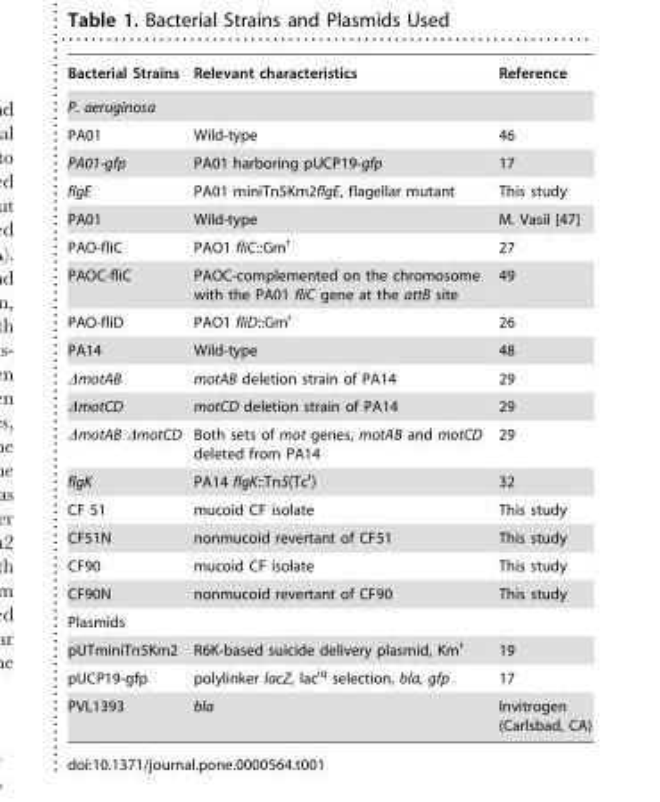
<table><thead><tr><td>Bacterial Strains</td><td>Relevant characteristics</td><td>Reference</td></tr></thead><tbody><tr><td colspan="3">P. aeruginosa</td></tr><tr><td>PA01</td><td>Wild-type</td><td>46</td></tr><tr><td>PA01-gfp</td><td>PA01 harboring pUCP19-gfp</td><td>17</td></tr><tr><td>flgE</td><td>PA01 miniTn5Km2flgE, flagellar mutant</td><td>This study</td></tr><tr><td>PA01</td><td>Wild-type</td><td>M. Vasil [47]</td></tr><tr><td>PAO-fliC</td><td>PAO1 fliC::Gm<sup>r</sup></td><td>27</td></tr><tr><td>PAOC-fliC</td><td>PAOC-complemented on the chromosome with the PA01 fliC gene at the attB site</td><td>49</td></tr><tr><td>PAO-fliD</td><td>PAO1 fliD::Gm<sup>r</sup></td><td>26</td></tr><tr><td>PA14</td><td>Wild-type</td><td>48</td></tr><tr><td>ΔmotAB</td><td>motAB deletion strain of PA14</td><td>29</td></tr><tr><td>ΔmotCD</td><td>motCD deletion strain of PA14</td><td>29</td></tr><tr><td>ΔmotAB ΔmotCD</td><td>Both sets of mot genes, motAB and motCD deleted from PA14</td><td>29</td></tr><tr><td>flgK</td><td>PA14 flgK::Tn5(Tc<sup>r</sup>)</td><td>32</td></tr><tr><td>CF 51</td><td>mucoid CF isolate</td><td>This study</td></tr><tr><td>CF51N</td><td>nonmucoid revertant of CF51</td><td>This study</td></tr><tr><td>CF90</td><td>mucoid CF isolate</td><td>This study</td></tr><tr><td>CF90N</td><td>nonmucoid revertant of CF90</td><td>This study</td></tr><tr><td colspan="3">Plasmids</td></tr><tr><td>pUTminiTn5Km2</td><td>R6K-based suicide delivery plasmid, Km<sup>r</sup></td><td>19</td></tr><tr><td>pUCP19-gfp</td><td>polylinker lacZ, lac<sup>iq</sup> selection, bla, gfp</td><td>17</td></tr><tr><td>PVL1393</td><td>bla</td><td>Invitrogen (Carlsbad, CA)</td></tr></tbody></table>